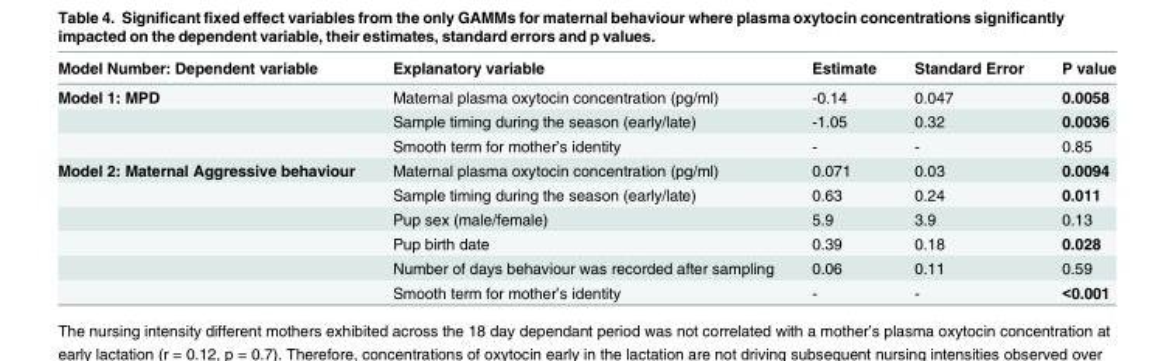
<table><thead><tr><td>Model Number: Dependent variable</td><td>Explanatory variable</td><td>Estimate</td><td>Standard Error</td><td>P value</td></tr></thead><tbody><tr><td rowspan="3">Model 1: MPD</td><td>Maternal plasma oxytocin concentration (pg/ml)</td><td>-0.14</td><td>0.047</td><td>0.0058</td></tr><tr><td>Sample timing during the season (early/late)</td><td>-1.05</td><td>0.32</td><td>0.0036</td></tr><tr><td>Smooth term for mother’s identity</td><td>-</td><td>-</td><td>0.85</td></tr><tr><td rowspan="6">Model 2: Maternal Aggressive behaviour</td><td>Maternal plasma oxytocin concentration (pg/ml)</td><td>0.071</td><td>0.03</td><td>0.0094</td></tr><tr><td>Sample timing during the season (early/late)</td><td>0.63</td><td>0.24</td><td>0.011</td></tr><tr><td>Pup sex (male/female)</td><td>5.9</td><td>3.9</td><td>0.13</td></tr><tr><td>Pup birth date</td><td>0.39</td><td>0.18</td><td>0.028</td></tr><tr><td>Number of days behaviour was recorded after sampling</td><td>0.06</td><td>0.11</td><td>0.59</td></tr><tr><td>Smooth term for mother’s identity</td><td>-</td><td>-</td><td>&lt;0.001</td></tr></tbody></table>